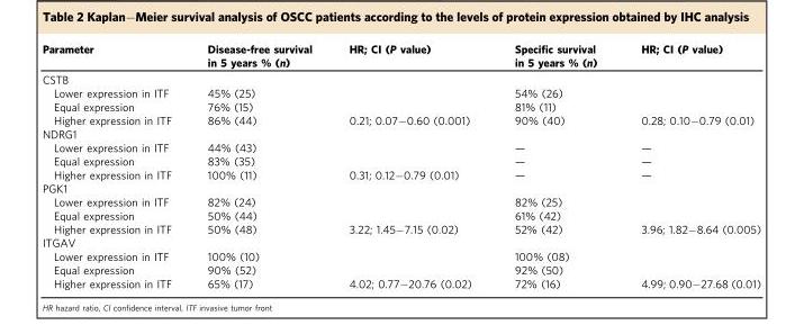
<table><thead><tr><td>Parameter</td><td>Disease-free survival in 5 years % (n)</td><td>HR; CI (P value)</td><td>Specific survival in 5 years % (n)</td><td>HR; CI (P value)</td></tr></thead><tbody><tr><td colspan="5">CSTB</td></tr><tr><td>Lower expression in ITF</td><td>45% (25)</td><td></td><td>54% (26)</td><td></td></tr><tr><td>Equal expression</td><td>76% (15)</td><td></td><td>81% (11)</td><td></td></tr><tr><td>Higher expression in ITF</td><td>86% (44)</td><td>0.21; 0.07−0.60 (0.001)</td><td>90% (40)</td><td>0.28; 0.10−0.79 (0.01)</td></tr><tr><td colspan="5">NDRG1</td></tr><tr><td>Lower expression in ITF</td><td>44% (43)</td><td></td><td>—</td><td>—</td></tr><tr><td>Equal expression</td><td>83% (35)</td><td></td><td>—</td><td>—</td></tr><tr><td>Higher expression in ITF</td><td>100% (11)</td><td>0.31; 0.12−0.79 (0.01)</td><td>—</td><td>—</td></tr><tr><td colspan="5">PGK1</td></tr><tr><td>Lower expression in ITF</td><td>82% (24)</td><td></td><td>82% (25)</td><td></td></tr><tr><td>Equal expression</td><td>50% (44)</td><td></td><td>61% (42)</td><td></td></tr><tr><td>Higher expression in ITF</td><td>50% (48)</td><td>3.22; 1.45−7.15 (0.02)</td><td>52% (42)</td><td>3.96; 1.82−8.64 (0.005)</td></tr><tr><td colspan="5">ITGAV</td></tr><tr><td>Lower expression in ITF</td><td>100% (10)</td><td></td><td>100% (08)</td><td></td></tr><tr><td>Equal expression</td><td>90% (52)</td><td></td><td>92% (50)</td><td></td></tr><tr><td>Higher expression in ITF</td><td>65% (17)</td><td>4.02; 0.77−20.76 (0.02)</td><td>72% (16)</td><td>4.99; 0.90−27.68 (0.01)</td></tr></tbody></table>